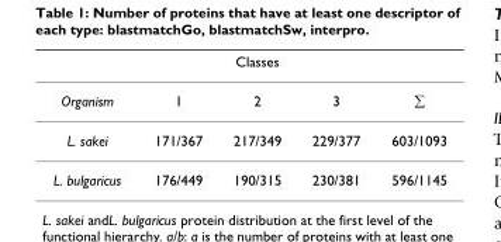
<table><thead><tr><td rowspan="2">Organism</td><td colspan="3">Classes</td><td rowspan="2">∑</td></tr><tr><td>1</td><td>2</td><td>3</td></tr></thead><tbody><tr><td>L. sakei</td><td>171/367</td><td>217/349</td><td>229/377</td><td>603/1093</td></tr><tr><td>L. bulgaricus</td><td>176/449</td><td>190/315</td><td>230/381</td><td>596/1145</td></tr></tbody></table>